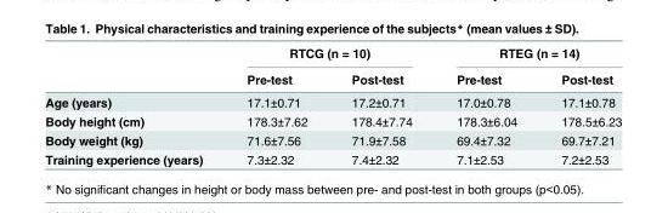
<table><thead><tr><td rowspan="2"></td><td colspan="2">RTCG (n = 10)</td><td colspan="2">RTEG (n = 14)</td></tr><tr><td>Pre-test</td><td>Post-test</td><td>Pre-test</td><td>Post-test</td></tr></thead><tbody><tr><td>Age (years)</td><td>17.1±0.71</td><td>17.2±0.71</td><td>17.0±0.78</td><td>17.1±0.78</td></tr><tr><td>Body height (cm)</td><td>178.3±7.62</td><td>178.4±7.74</td><td>178.3±6.04</td><td>178.5±6.23</td></tr><tr><td>Body weight (kg)</td><td>71.6±7.56</td><td>71.9±7.58</td><td>69.4±7.32</td><td>69.7±7.21</td></tr><tr><td>Training experience (years)</td><td>7.3±2.32</td><td>7.4±2.32</td><td>7.1±2.53</td><td>7.2±2.53</td></tr></tbody></table>